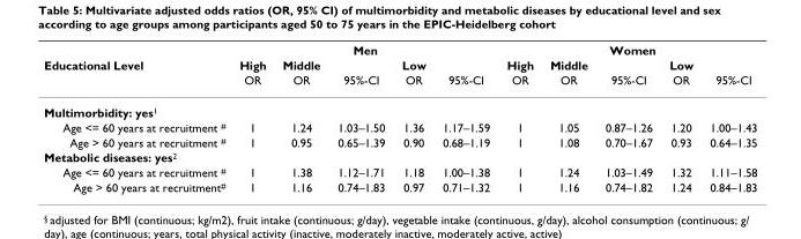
<table><thead><tr><td rowspan="3">Educational Level</td><td colspan="5">Men</td><td colspan="5">Women</td></tr><tr><td rowspan="2">High OR</td><td rowspan="2">Middle OR</td><td rowspan="2">95%-CI</td><td rowspan="2">Low OR</td><td rowspan="2">95%-CI</td><td rowspan="2">High OR</td><td rowspan="2">Middle OR</td><td rowspan="2">95%-CI</td><td rowspan="2">Low OR</td><td rowspan="2">95%-CI</td></tr><tr></tr></thead><tbody><tr><td colspan="11">Multimorbidity: yes<sup>1</sup></td></tr><tr><td>Age &lt;= 60 years at recruitment <sup>#</sup></td><td>1</td><td>1.24</td><td>1.03–1.50</td><td>1.36</td><td>1.17–1.59</td><td>1</td><td>1.05</td><td>0.87–1.26</td><td>1.20</td><td>1.00–1.43</td></tr><tr><td>Age &gt; 60 years at recruitment <sup>#</sup></td><td>1</td><td>0.95</td><td>0.65–1.39</td><td>0.90</td><td>0.68–1.19</td><td>1</td><td>1.08</td><td>0.70–1.67</td><td>0.93</td><td>0.64–1.35</td></tr><tr><td colspan="11">Metabolic diseases: yes<sup>2</sup></td></tr><tr><td>Age &lt;= 60 years at recruitment <sup>#</sup></td><td>1</td><td>1.38</td><td>1.12–1.71</td><td>1.18</td><td>1.00–1.38</td><td>1</td><td>1.24</td><td>1.03–1.49</td><td>1.32</td><td>1.11–1.58</td></tr><tr><td>Age &gt; 60 years at recruitment<sup>#</sup></td><td>1</td><td>1.16</td><td>0.74–1.83</td><td>0.97</td><td>0.71–1.32</td><td>1</td><td>1.16</td><td>0.74–1.82</td><td>1.24</td><td>0.84–1.83</td></tr></tbody></table>